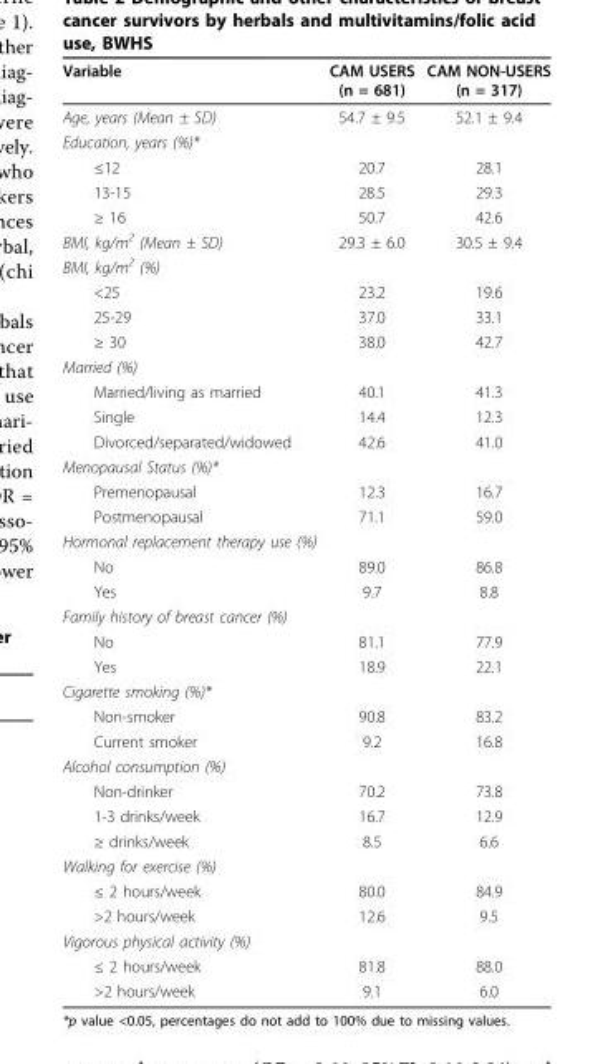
<table><thead><tr><td>Variable</td><td>CAM USERS (n = 681)</td><td>CAM NON-USERS (n = 317)</td></tr></thead><tbody><tr><td>Age, years (Mean ± SD)</td><td>54.7 ± 9.5</td><td>52.1 ± 9.4</td></tr><tr><td colspan="3">Education, years (%)*</td></tr><tr><td>≤12</td><td>20.7</td><td>28.1</td></tr><tr><td>13-15</td><td>28.5</td><td>29.3</td></tr><tr><td>≥ 16</td><td>50.7</td><td>42.6</td></tr><tr><td>BMI, kg/m<sup>2</sup> (Mean ± SD)</td><td>29.3 ± 6.0</td><td>30.5 ± 9.4</td></tr><tr><td colspan="3">BMI, kg/m<sup>2</sup> (%)</td></tr><tr><td>&lt;25</td><td>23.2</td><td>19.6</td></tr><tr><td>25-29</td><td>37.0</td><td>33.1</td></tr><tr><td>≥ 30</td><td>38.0</td><td>42.7</td></tr><tr><td colspan="3">Married (%)</td></tr><tr><td>Married/living as married</td><td>40.1</td><td>41.3</td></tr><tr><td>Single</td><td>14.4</td><td>12.3</td></tr><tr><td>Divorced/separated/widowed</td><td>42.6</td><td>41.0</td></tr><tr><td colspan="3">Menopausal Status (%)*</td></tr><tr><td>Premenopausal</td><td>12.3</td><td>16.7</td></tr><tr><td>Postmenopausal</td><td>71.1</td><td>59.0</td></tr><tr><td colspan="3">Hormonal replacement therapy use (%)</td></tr><tr><td>No</td><td>89.0</td><td>86.8</td></tr><tr><td>Yes</td><td>9.7</td><td>8.8</td></tr><tr><td colspan="3">Family history of breast cancer (%)</td></tr><tr><td>No</td><td>81.1</td><td>77.9</td></tr><tr><td>Yes</td><td>18.9</td><td>22.1</td></tr><tr><td colspan="3">Cigarette smoking (%)*</td></tr><tr><td>Non-smoker</td><td>90.8</td><td>83.2</td></tr><tr><td>Current smoker</td><td>9.2</td><td>16.8</td></tr><tr><td colspan="3">Alcohol consumption (%)</td></tr><tr><td>Non-drinker</td><td>70.2</td><td>73.8</td></tr><tr><td>1-3 drinks/week</td><td>16.7</td><td>12.9</td></tr><tr><td>≥ drinks/week</td><td>8.5</td><td>6.6</td></tr><tr><td colspan="3">Walking for exercise (%)</td></tr><tr><td>≤ 2 hours/week</td><td>80.0</td><td>84.9</td></tr><tr><td>&gt;2 hours/week</td><td>12.6</td><td>9.5</td></tr><tr><td colspan="3">Vigorous physical activity (%)</td></tr><tr><td>≤ 2 hours/week</td><td>81.8</td><td>88.0</td></tr><tr><td>&gt;2 hours/week</td><td>9.1</td><td>6.0</td></tr></tbody></table>